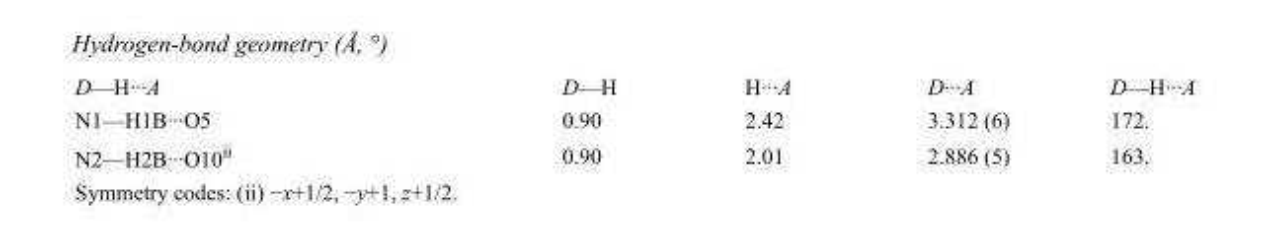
<table><tbody><tr><td>D—H···A</td><td>D—H</td><td>H···A</td><td>D···A</td><td>D—H···A</td></tr><tr><td>N1—H1B···O5</td><td>0.90</td><td>2.42</td><td>3.312 (6)</td><td>172.</td></tr><tr><td>N2—H2B···O10<sup>ii</sup></td><td>0.90</td><td>2.01</td><td>2.886 (5)</td><td>163.</td></tr></tbody></table>